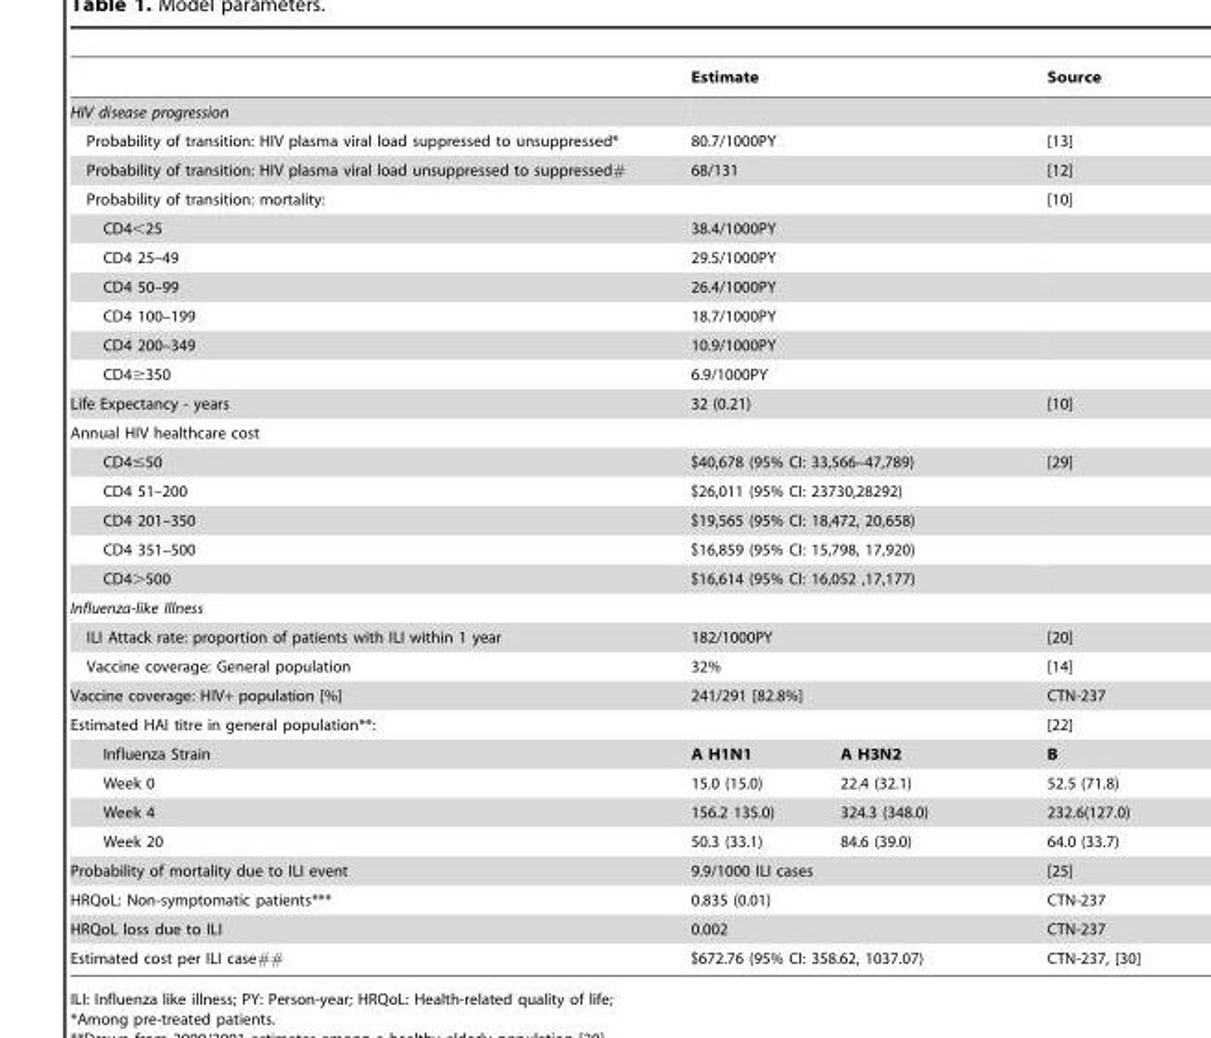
<table><thead><tr><td></td><td colspan="2">Estimate</td><td>Source</td></tr></thead><tbody><tr><td colspan="4">HIV disease progression</td></tr><tr><td>Probability of transition: HIV plasma viral load suppressed to unsuppressed*</td><td colspan="2">80.7/1000PY</td><td>[13]</td></tr><tr><td>Probability of transition: HIV plasma viral load unsuppressed to suppressed#</td><td colspan="2">68/131</td><td>[12]</td></tr><tr><td>Probability of transition: mortality:</td><td colspan="2"></td><td>[10]</td></tr><tr><td>CD4&lt;25</td><td colspan="2">38.4/1000PY</td><td></td></tr><tr><td>CD4 25–49</td><td colspan="2">29.5/1000PY</td><td></td></tr><tr><td>CD4 50–99</td><td colspan="2">26.4/1000PY</td><td></td></tr><tr><td>CD4 100–199</td><td colspan="2">18.7/1000PY</td><td></td></tr><tr><td>CD4 200–349</td><td colspan="2">10.9/1000PY</td><td></td></tr><tr><td>CD4≥350</td><td colspan="2">6.9/1000PY</td><td></td></tr><tr><td>Life Expectancy - years</td><td colspan="2">32 (0.21)</td><td>[10]</td></tr><tr><td colspan="4">Annual HIV healthcare cost</td></tr><tr><td>CD4≤50</td><td colspan="2">$40,678 (95% CI: 33,566–47,789)</td><td>[29]</td></tr><tr><td>CD4 51–200</td><td colspan="2">$26,011 (95% CI: 23730,28292)</td><td></td></tr><tr><td>CD4 201–350</td><td colspan="2">$19,565 (95% CI: 18,472, 20,658)</td><td></td></tr><tr><td>CD4 351–500</td><td colspan="2">$16,859 (95% CI: 15,798, 17,920)</td><td></td></tr><tr><td>CD4&gt;500</td><td colspan="2">$16,614 (95% CI: 16,052 ,17,177)</td><td></td></tr><tr><td colspan="4">Influenza-like Illness</td></tr><tr><td>ILI Attack rate: proportion of patients with ILI within 1 year</td><td colspan="2">182/1000PY</td><td>[20]</td></tr><tr><td>Vaccine coverage: General population</td><td colspan="2">32%</td><td>[14]</td></tr><tr><td>Vaccine coverage: HIV+ population [%]</td><td colspan="2">241/291 [82.8%]</td><td>CTN-237</td></tr><tr><td>Estimated HAI titre in general population**:</td><td colspan="2"></td><td>[22]</td></tr><tr><td>Influenza Strain</td><td>A H1N1</td><td>A H3N2</td><td>B</td></tr><tr><td>Week 0</td><td>15.0 (15.0)</td><td>22.4 (32.1)</td><td>52.5 (71.8)</td></tr><tr><td>Week 4</td><td>156.2 135.0)</td><td>324.3 (348.0)</td><td>232.6(127.0)</td></tr><tr><td>Week 20</td><td>50.3 (33.1)</td><td>84.6 (39.0)</td><td>64.0 (33.7)</td></tr><tr><td>Probability of mortality due to ILI event</td><td colspan="2">9.9/1000 ILI cases</td><td>[25]</td></tr><tr><td>HRQoL: Non-symptomatic patients***</td><td colspan="2">0.835 (0.01)</td><td>CTN-237</td></tr><tr><td>HRQoL loss due to ILI</td><td colspan="2">0.002</td><td>CTN-237</td></tr><tr><td>Estimated cost per ILI case##</td><td colspan="2">$672.76 (95% CI: 358.62, 1037.07)</td><td>CTN-237, [30]</td></tr></tbody></table>